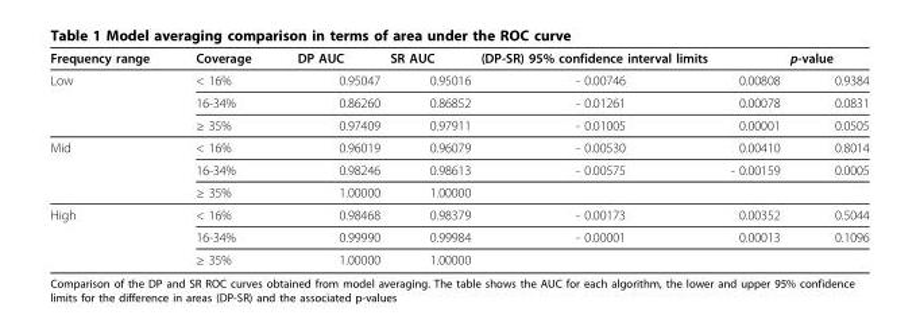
<table><thead><tr><td rowspan="2">Frequency range Low</td><td rowspan="2">Coverage &lt; 16%</td><td rowspan="2">DP AUC 0.95047</td><td rowspan="2">SR AUC 0.95016</td><td colspan="2">(DP-SR) 95% confidence interval limits</td><td rowspan="2">p-value 0.9384</td></tr><tr><td>- 0.00746</td><td>0.00808</td></tr></thead><tbody><tr><td></td><td>16-34%</td><td>0.86260</td><td>0.86852</td><td>- 0.01261</td><td>0.00078</td><td>0.0831</td></tr><tr><td></td><td>≥ 35%</td><td>0.97409</td><td>0.97911</td><td>- 0.01005</td><td>0.00001</td><td>0.0505</td></tr><tr><td rowspan="3">Mid</td><td>&lt; 16%</td><td>0.96019</td><td>0.96079</td><td>- 0.00530</td><td>0.00410</td><td>0.8014</td></tr><tr><td>16-34%</td><td>0.98246</td><td>0.98613</td><td>- 0.00575</td><td>- 0.00159</td><td>0.0005</td></tr><tr><td>≥ 35%</td><td>1.00000</td><td>1.00000</td><td></td><td></td><td></td></tr><tr><td rowspan="3">High</td><td>&lt; 16%</td><td>0.98468</td><td>0.98379</td><td>- 0.00173</td><td>0.00352</td><td>0.5044</td></tr><tr><td>16-34%</td><td>0.99990</td><td>0.99984</td><td>- 0.00001</td><td>0.00013</td><td>0.1096</td></tr><tr><td>≥ 35%</td><td>1.00000</td><td>1.00000</td><td></td><td></td><td></td></tr></tbody></table>